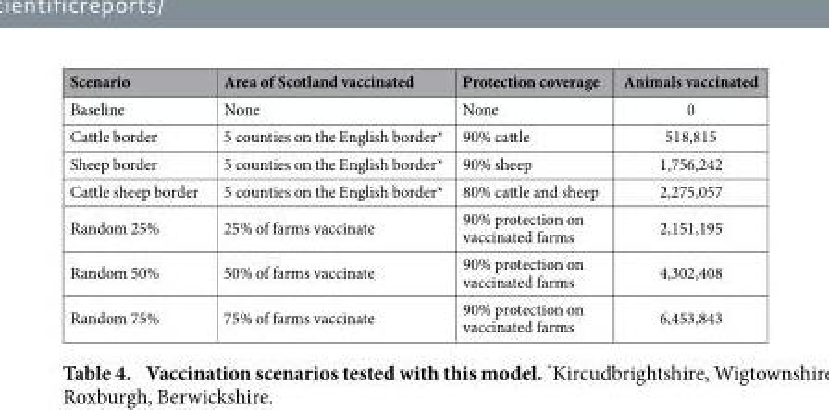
<table><thead><tr><td>Scenario</td><td>Area of Scotland vaccinated</td><td>Protection coverage</td><td>Animals vaccinated</td></tr></thead><tbody><tr><td>Baseline</td><td>None</td><td>None</td><td>0</td></tr><tr><td>Cattle border</td><td>5 counties on the English border*</td><td>90% cattle</td><td>518,815</td></tr><tr><td>Sheep border</td><td>5 counties on the English border*</td><td>90% sheep</td><td>1,756,242</td></tr><tr><td>Cattle sheep border</td><td>5 counties on the English border*</td><td>80% cattle and sheep</td><td>2,275,057</td></tr><tr><td>Random 25%</td><td>25% of farms vaccinate</td><td>90% protection on vaccinated farms</td><td>2,151,195</td></tr><tr><td>Random 50%</td><td>50% of farms vaccinate</td><td>90% protection on vaccinated farms</td><td>4,302,408</td></tr><tr><td>Random 75%</td><td>75% of farms vaccinate</td><td>90% protection on vaccinated farms</td><td>6,453,843</td></tr></tbody></table>